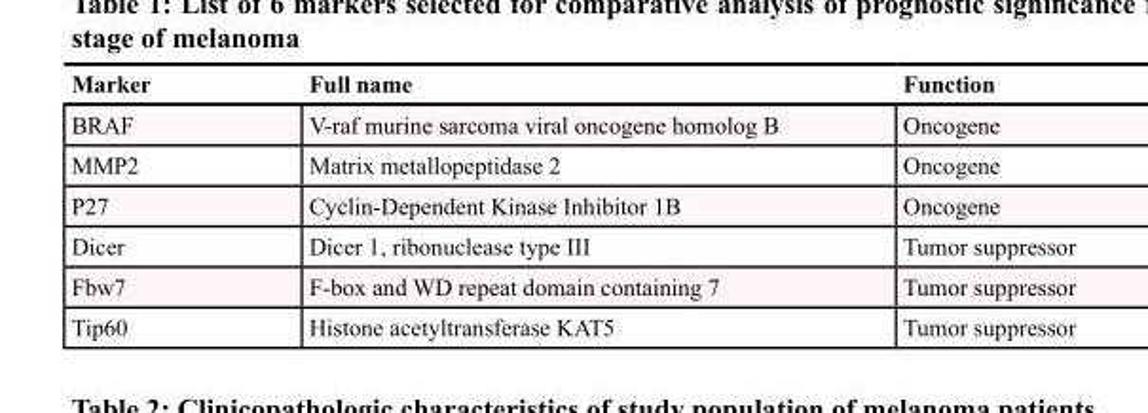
<table><thead><tr><td>Marker</td><td>Full name</td><td>Function</td></tr></thead><tbody><tr><td>BRAF</td><td>V-raf murine sarcoma viral oncogene homolog B</td><td>Oncogene</td></tr><tr><td>MMP2</td><td>Matrix metallopeptidase 2</td><td>Oncogene</td></tr><tr><td>P27</td><td>Cyclin-Dependent Kinase Inhibitor 1B</td><td>Oncogene</td></tr><tr><td>Dicer</td><td>Dicer 1, ribonuclease type III</td><td>Tumor suppressor</td></tr><tr><td>Fbw7</td><td>F-box and WD repeat domain containing 7</td><td>Tumor suppressor</td></tr><tr><td>Tip60</td><td>Histone acetyltransferase KAT5</td><td>Tumor suppressor</td></tr></tbody></table>